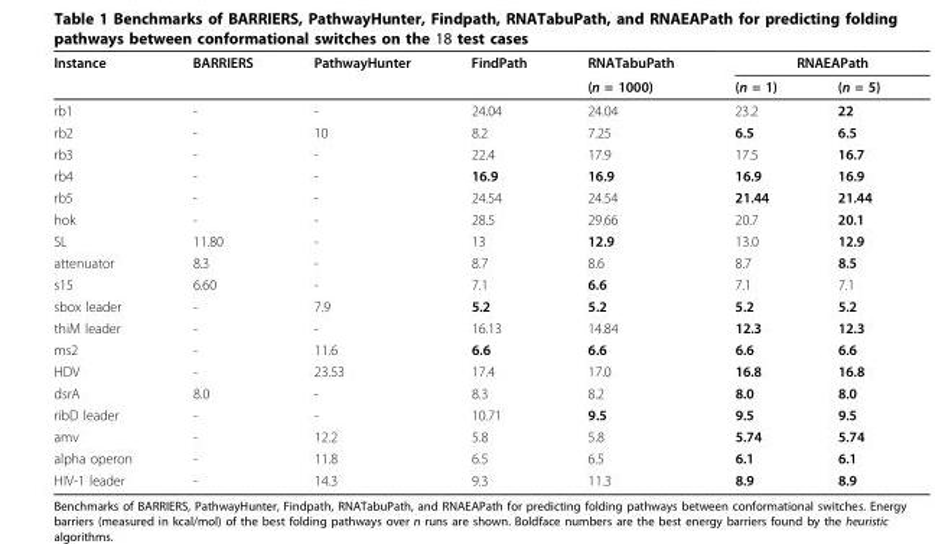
<table><thead><tr><td rowspan="2">Instance</td><td rowspan="2">BARRIERS</td><td rowspan="2">PathwayHunter</td><td rowspan="2">FindPath</td><td rowspan="2">RNATabuPath (n = 1000)</td><td colspan="2">RNAEAPath</td></tr><tr><td>(n = 1)</td><td>(n = 5)</td></tr></thead><tbody><tr><td>rb1</td><td>-</td><td>-</td><td>24.04</td><td>24.04</td><td>23.2</td><td>22</td></tr><tr><td>rb2</td><td>-</td><td>10</td><td>8.2</td><td>7.25</td><td>6.5</td><td>6.5</td></tr><tr><td>rb3</td><td>-</td><td>-</td><td>22.4</td><td>17.9</td><td>17.5</td><td>16.7</td></tr><tr><td>rb4</td><td>-</td><td>-</td><td>16.9</td><td>16.9</td><td>16.9</td><td>16.9</td></tr><tr><td>rb5</td><td>-</td><td>-</td><td>24.54</td><td>24.54</td><td>21.44</td><td>21.44</td></tr><tr><td>hok</td><td>-</td><td>-</td><td>28.5</td><td>29.66</td><td>20.7</td><td>20.1</td></tr><tr><td>SL</td><td>11.80</td><td>-</td><td>13</td><td>12.9</td><td>13.0</td><td>12.9</td></tr><tr><td>attenuator</td><td>8.3</td><td>-</td><td>8.7</td><td>8.6</td><td>8.7</td><td>8.5</td></tr><tr><td>s15</td><td>6.60</td><td>-</td><td>7.1</td><td>6.6</td><td>7.1</td><td>7.1</td></tr><tr><td>sbox leader</td><td>-</td><td>7.9</td><td>5.2</td><td>5.2</td><td>5.2</td><td>5.2</td></tr><tr><td>thiM leader</td><td>-</td><td>-</td><td>16.13</td><td>14.84</td><td>12.3</td><td>12.3</td></tr><tr><td>ms2</td><td>-</td><td>11.6</td><td>6.6</td><td>6.6</td><td>6.6</td><td>6.6</td></tr><tr><td>HDV</td><td>-</td><td>23.53</td><td>17.4</td><td>17.0</td><td>16.8</td><td>16.8</td></tr><tr><td>dsrA</td><td>8.0</td><td>-</td><td>8.3</td><td>8.2</td><td>8.0</td><td>8.0</td></tr><tr><td>ribD leader</td><td>-</td><td>-</td><td>10.71</td><td>9.5</td><td>9.5</td><td>9.5</td></tr><tr><td>amv</td><td>-</td><td>12.2</td><td>5.8</td><td>5.8</td><td>5.74</td><td>5.74</td></tr><tr><td>alpha operon</td><td>-</td><td>11.8</td><td>6.5</td><td>6.5</td><td>6.1</td><td>6.1</td></tr><tr><td>HIV-1 leader</td><td>-</td><td>14.3</td><td>9.3</td><td>11.3</td><td>8.9</td><td>8.9</td></tr></tbody></table>